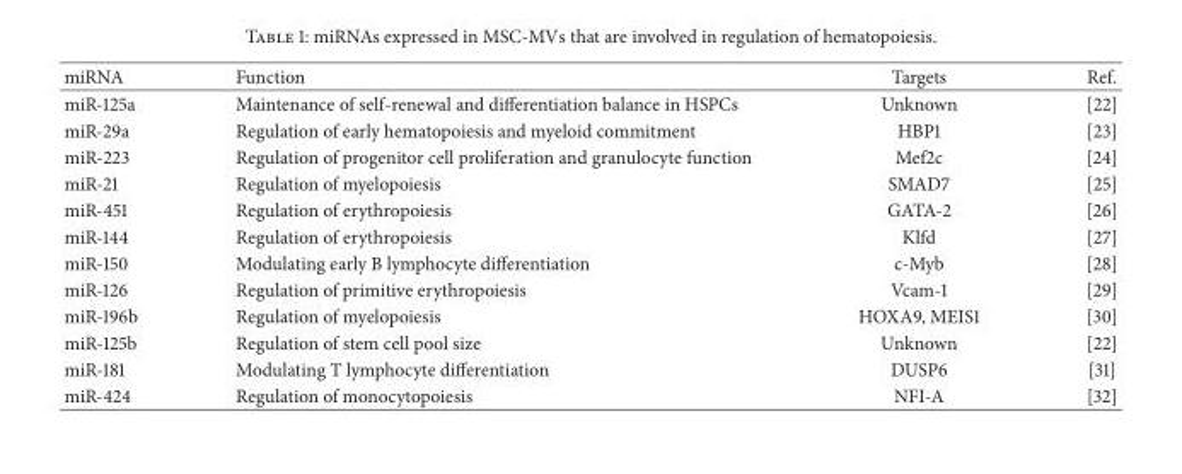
<table><thead><tr><td>miRNA</td><td>Function</td><td>Targets</td><td>Ref.</td></tr></thead><tbody><tr><td>miR-125a</td><td>Maintenance of self-renewal and differentiation balance in HSPCs</td><td>Unknown</td><td>[22]</td></tr><tr><td>miR-29a</td><td>Regulation of early hematopoiesis and myeloid commitment</td><td>HBP1</td><td>[23]</td></tr><tr><td>miR-223</td><td>Regulation of progenitor cell proliferation and granulocyte function</td><td>Mef2c</td><td>[24]</td></tr><tr><td>miR-21</td><td>Regulation of myelopoiesis</td><td>SMAD7</td><td>[25]</td></tr><tr><td>miR-451</td><td>Regulation of erythropoiesis</td><td>GATA-2</td><td>[26]</td></tr><tr><td>miR-144</td><td>Regulation of erythropoiesis</td><td>Klfd</td><td>[27]</td></tr><tr><td>miR-150</td><td>Modulating early B lymphocyte differentiation</td><td>c-Myb</td><td>[28]</td></tr><tr><td>miR-126</td><td>Regulation of primitive erythropoiesis</td><td>Vcam-1</td><td>[29]</td></tr><tr><td>miR-196b</td><td>Regulation of myelopoiesis</td><td>HOXA9, MEIS1</td><td>[30]</td></tr><tr><td>miR-125b</td><td>Regulation of stem cell pool size</td><td>Unknown</td><td>[22]</td></tr><tr><td>miR-181</td><td>Modulating T lymphocyte differentiation</td><td>DUSP6</td><td>[31]</td></tr><tr><td>miR-424</td><td>Regulation of monocytopoiesis</td><td>NFI-A</td><td>[32]</td></tr></tbody></table>